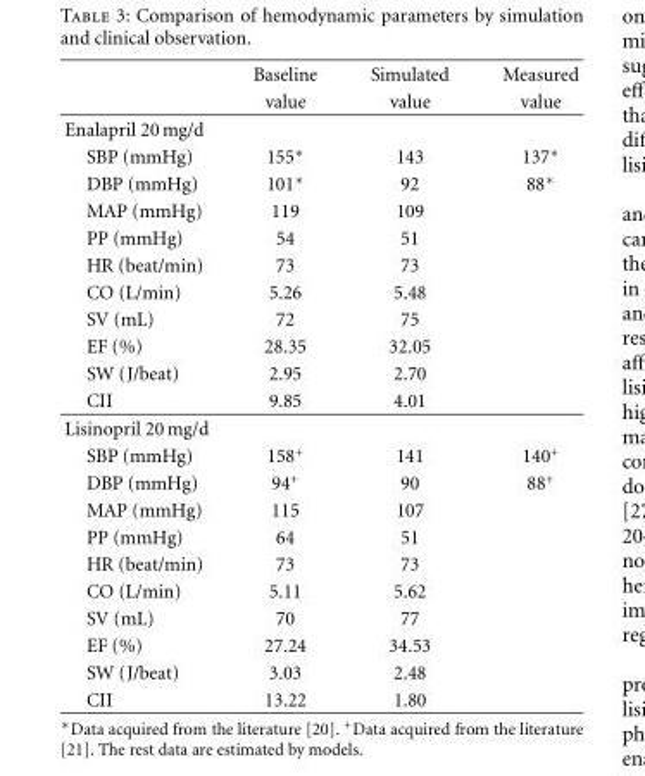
<table><thead><tr><td rowspan="2"></td><td rowspan="2">Baseline value</td><td rowspan="2">Simulated value</td><td rowspan="2">Measured value</td></tr><tr></tr></thead><tbody><tr><td colspan="4">Enalapril 20 mg/d</td></tr><tr><td>SBP (mmHg)</td><td>155∗</td><td>143</td><td>137∗</td></tr><tr><td>DBP (mmHg)</td><td>101∗</td><td>92</td><td>88∗</td></tr><tr><td>MAP (mmHg)</td><td>119</td><td>109</td><td></td></tr><tr><td>PP (mmHg)</td><td>54</td><td>51</td><td></td></tr><tr><td>HR (beat/min)</td><td>73</td><td>73</td><td></td></tr><tr><td>CO (L/min)</td><td>5.26</td><td>5.48</td><td></td></tr><tr><td>SV (mL)</td><td>72</td><td>75</td><td></td></tr><tr><td>EF (%)</td><td>28.35</td><td>32.05</td><td></td></tr><tr><td>SW (J/beat)</td><td>2.95</td><td>2.70</td><td></td></tr><tr><td>CII</td><td>9.85</td><td>4.01</td><td></td></tr><tr><td colspan="4">Lisinopril 20 mg/d</td></tr><tr><td>SBP (mmHg)</td><td>158+</td><td>141</td><td>140+</td></tr><tr><td>DBP (mmHg)</td><td>94+</td><td>90</td><td>88+</td></tr><tr><td>MAP (mmHg)</td><td>115</td><td>107</td><td></td></tr><tr><td>PP (mmHg)</td><td>64</td><td>51</td><td></td></tr><tr><td>HR (beat/min)</td><td>73</td><td>73</td><td></td></tr><tr><td>CO (L/min)</td><td>5.11</td><td>5.62</td><td></td></tr><tr><td>SV (mL)</td><td>70</td><td>77</td><td></td></tr><tr><td>EF (%)</td><td>27.24</td><td>34.53</td><td></td></tr><tr><td>SW (J/beat)</td><td>3.03</td><td>2.48</td><td></td></tr><tr><td>CII</td><td>13.22</td><td>1.80</td><td></td></tr></tbody></table>